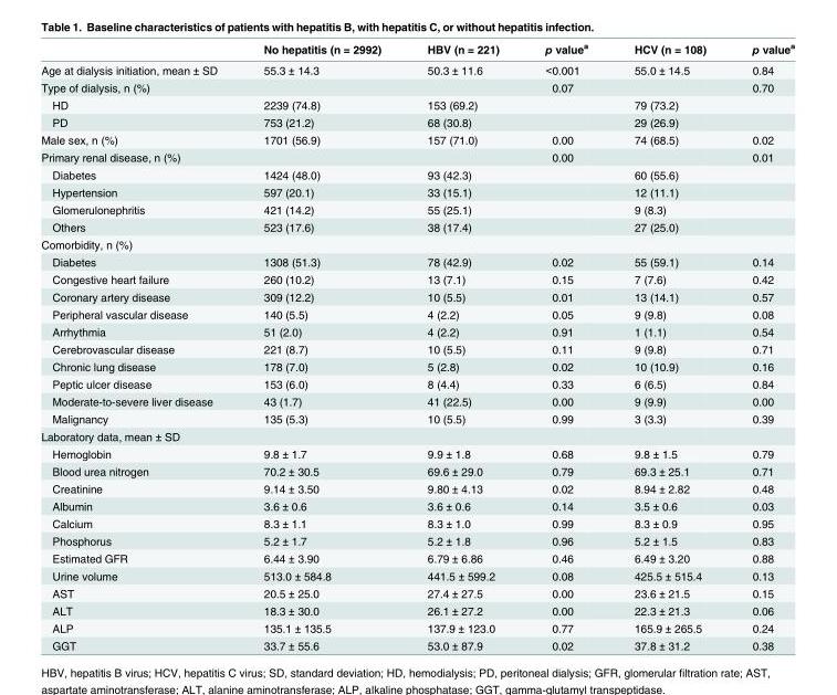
<table><thead><tr><td></td><td>No hepatitis (n = 2992)</td><td>HBV (n = 221)</td><td>p value<sup>a</sup></td><td>HCV (n = 108)</td><td>p value<sup>a</sup></td></tr></thead><tbody><tr><td>Age at dialysis initiation, mean ± SD</td><td>55.3 ± 14.3</td><td>50.3 ± 11.6</td><td>&lt;0.001</td><td>55.0 ± 14.5</td><td>0.84</td></tr><tr><td>Type of dialysis, n (%)</td><td></td><td></td><td>0.07</td><td></td><td>0.70</td></tr><tr><td>HD</td><td>2239 (74.8)</td><td>153 (69.2)</td><td></td><td>79 (73.2)</td><td></td></tr><tr><td>PD</td><td>753 (21.2)</td><td>68 (30.8)</td><td></td><td>29 (26.9)</td><td></td></tr><tr><td>Male sex, n (%)</td><td>1701 (56.9)</td><td>157 (71.0)</td><td>0.00</td><td>74 (68.5)</td><td>0.02</td></tr><tr><td>Primary renal disease, n (%)</td><td></td><td></td><td>0.00</td><td></td><td>0.01</td></tr><tr><td>Diabetes</td><td>1424 (48.0)</td><td>93 (42.3)</td><td></td><td>60 (55.6)</td><td></td></tr><tr><td>Hypertension</td><td>597 (20.1)</td><td>33 (15.1)</td><td></td><td>12 (11.1)</td><td></td></tr><tr><td>Glomerulonephritis</td><td>421 (14.2)</td><td>55 (25.1)</td><td></td><td>9 (8.3)</td><td></td></tr><tr><td>Others</td><td>523 (17.6)</td><td>38 (17.4)</td><td></td><td>27 (25.0)</td><td></td></tr><tr><td colspan="6">Comorbidity, n (%)</td></tr><tr><td>Diabetes</td><td>1308 (51.3)</td><td>78 (42.9)</td><td>0.02</td><td>55 (59.1)</td><td>0.14</td></tr><tr><td>Congestive heart failure</td><td>260 (10.2)</td><td>13 (7.1)</td><td>0.15</td><td>7 (7.6)</td><td>0.42</td></tr><tr><td>Coronary artery disease</td><td>309 (12.2)</td><td>10 (5.5)</td><td>0.01</td><td>13 (14.1)</td><td>0.57</td></tr><tr><td>Peripheral vascular disease</td><td>140 (5.5)</td><td>4 (2.2)</td><td>0.05</td><td>9 (9.8)</td><td>0.08</td></tr><tr><td>Arrhythmia</td><td>51 (2.0)</td><td>4 (2.2)</td><td>0.91</td><td>1 (1.1)</td><td>0.54</td></tr><tr><td>Cerebrovascular disease</td><td>221 (8.7)</td><td>10 (5.5)</td><td>0.11</td><td>9 (9.8)</td><td>0.71</td></tr><tr><td>Chronic lung disease</td><td>178 (7.0)</td><td>5 (2.8)</td><td>0.02</td><td>10 (10.9)</td><td>0.16</td></tr><tr><td>Peptic ulcer disease</td><td>153 (6.0)</td><td>8 (4.4)</td><td>0.33</td><td>6 (6.5)</td><td>0.84</td></tr><tr><td>Moderate-to-severe liver disease</td><td>43 (1.7)</td><td>41 (22.5)</td><td>0.00</td><td>9 (9.9)</td><td>0.00</td></tr><tr><td>Malignancy</td><td>135 (5.3)</td><td>10 (5.5)</td><td>0.99</td><td>3 (3.3)</td><td>0.39</td></tr><tr><td colspan="6">Laboratory data, mean ± SD</td></tr><tr><td>Hemoglobin</td><td>9.8 ± 1.7</td><td>9.9 ± 1.8</td><td>0.68</td><td>9.8 ± 1.5</td><td>0.79</td></tr><tr><td>Blood urea nitrogen</td><td>70.2 ± 30.5</td><td>69.6 ± 29.0</td><td>0.79</td><td>69.3 ± 25.1</td><td>0.71</td></tr><tr><td>Creatinine</td><td>9.14 ± 3.50</td><td>9.80 ± 4.13</td><td>0.02</td><td>8.94 ± 2.82</td><td>0.48</td></tr><tr><td>Albumin</td><td>3.6 ± 0.6</td><td>3.6 ± 0.6</td><td>0.14</td><td>3.5 ± 0.6</td><td>0.03</td></tr><tr><td>Calcium</td><td>8.3 ± 1.1</td><td>8.3 ± 1.0</td><td>0.99</td><td>8.3 ± 0.9</td><td>0.95</td></tr><tr><td>Phosphorus</td><td>5.2 ± 1.7</td><td>5.2 ± 1.8</td><td>0.96</td><td>5.2 ± 1.5</td><td>0.83</td></tr><tr><td>Estimated GFR</td><td>6.44 ± 3.90</td><td>6.79 ± 6.86</td><td>0.46</td><td>6.49 ± 3.20</td><td>0.88</td></tr><tr><td>Urine volume</td><td>513.0 ± 584.8</td><td>441.5 ± 599.2</td><td>0.08</td><td>425.5 ± 515.4</td><td>0.13</td></tr><tr><td>AST</td><td>20.5 ± 25.0</td><td>27.4 ± 27.5</td><td>0.00</td><td>23.6 ± 21.5</td><td>0.15</td></tr><tr><td>ALT</td><td>18.3 ± 30.0</td><td>26.1 ± 27.2</td><td>0.00</td><td>22.3 ± 21.3</td><td>0.06</td></tr><tr><td>ALP</td><td>135.1 ± 135.5</td><td>137.9 ± 123.0</td><td>0.77</td><td>165.9 ± 265.5</td><td>0.24</td></tr><tr><td>GGT</td><td>33.7 ± 55.6</td><td>53.0 ± 87.9</td><td>0.02</td><td>37.8 ± 31.2</td><td>0.38</td></tr></tbody></table>